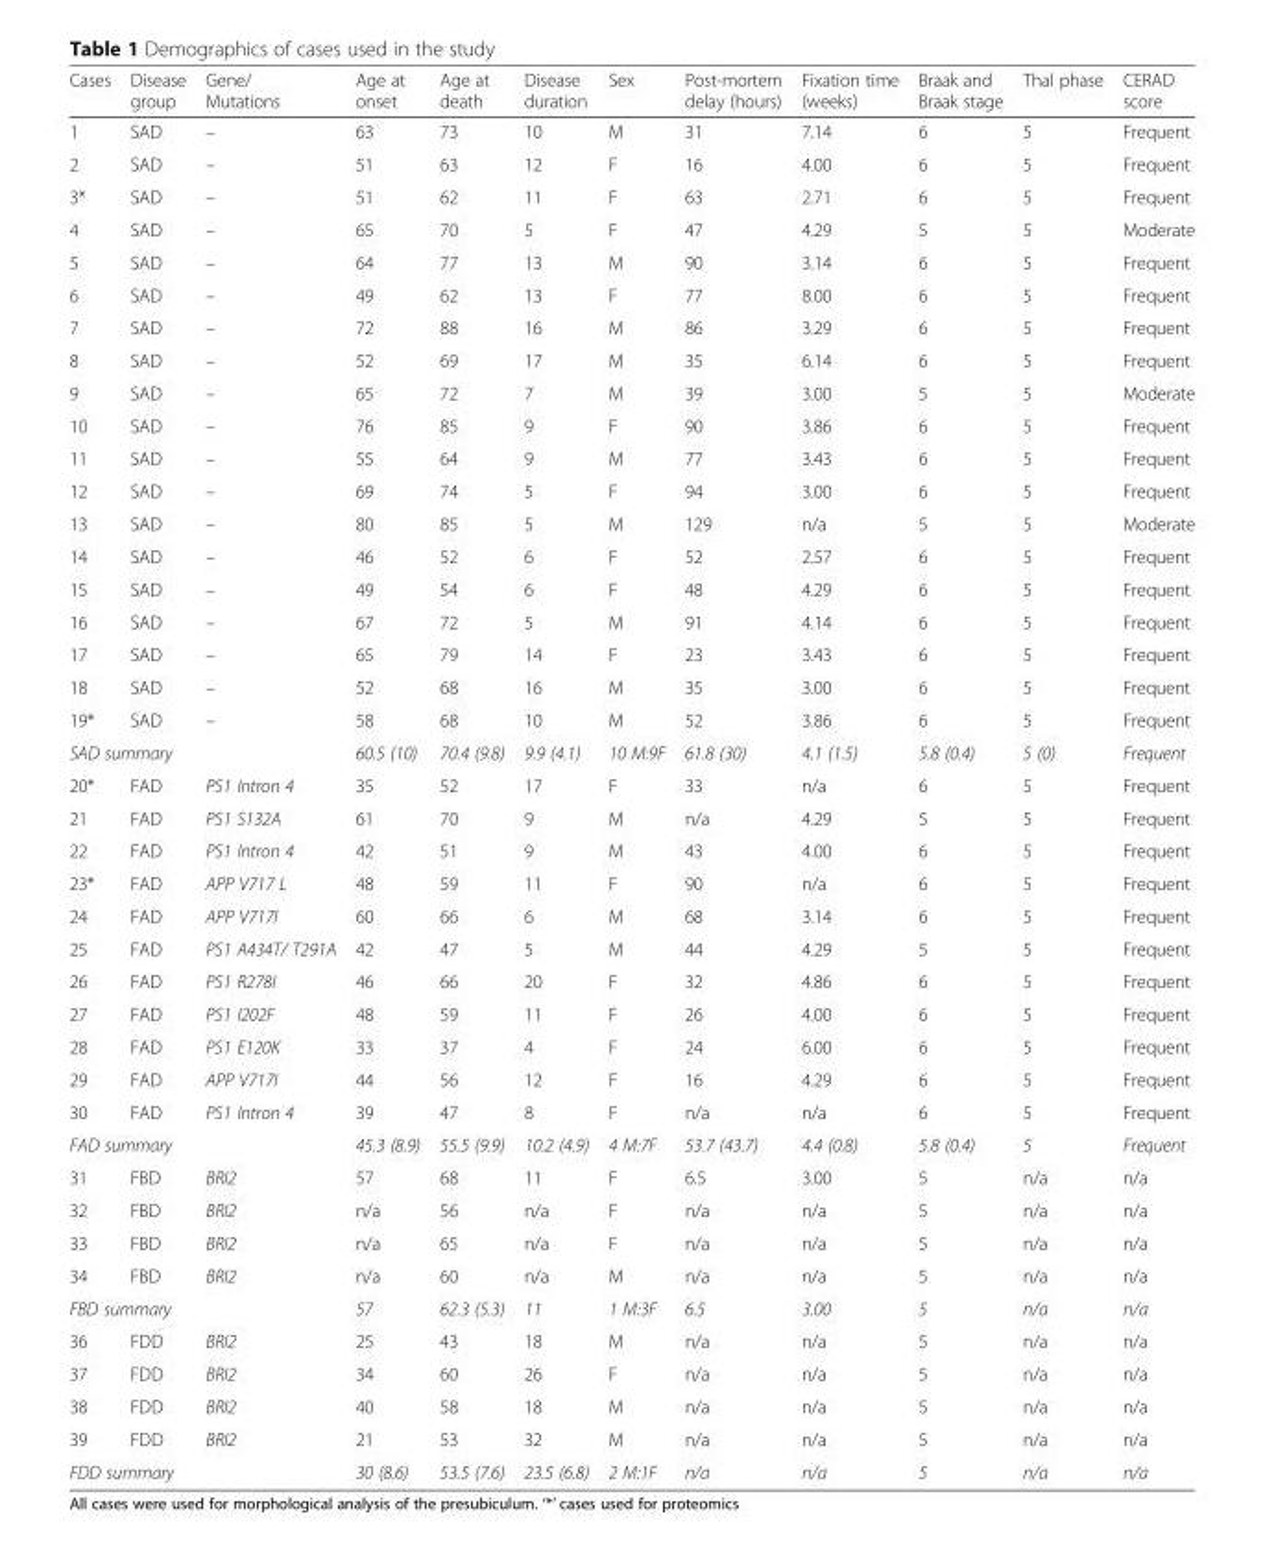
<table><thead><tr><td>Cases</td><td>Disease group</td><td>Gene/ Mutations</td><td>Age at onset</td><td>Age at death</td><td>Disease duration</td><td>Sex</td><td>Post-mortem delay (hours)</td><td>Fixation time (weeks)</td><td>Braak and Braak stage</td><td>Thal phase</td><td>CERAD score</td></tr></thead><tbody><tr><td>1</td><td>SAD</td><td>–</td><td>63</td><td>73</td><td>10</td><td>M</td><td>31</td><td>7.14</td><td>6</td><td>5</td><td>Frequent</td></tr><tr><td>2</td><td>SAD</td><td>–</td><td>51</td><td>63</td><td>12</td><td>F</td><td>16</td><td>4.00</td><td>6</td><td>5</td><td>Frequent</td></tr><tr><td>3*</td><td>SAD</td><td>–</td><td>51</td><td>62</td><td>11</td><td>F</td><td>63</td><td>2.71</td><td>6</td><td>5</td><td>Frequent</td></tr><tr><td>4</td><td>SAD</td><td>–</td><td>65</td><td>70</td><td>5</td><td>F</td><td>47</td><td>4.29</td><td>5</td><td>5</td><td>Moderate</td></tr><tr><td>5</td><td>SAD</td><td>–</td><td>64</td><td>77</td><td>13</td><td>M</td><td>90</td><td>3.14</td><td>6</td><td>5</td><td>Frequent</td></tr><tr><td>6</td><td>SAD</td><td>–</td><td>49</td><td>62</td><td>13</td><td>F</td><td>77</td><td>8.00</td><td>6</td><td>5</td><td>Frequent</td></tr><tr><td>7</td><td>SAD</td><td>–</td><td>72</td><td>88</td><td>16</td><td>M</td><td>86</td><td>3.29</td><td>6</td><td>5</td><td>Frequent</td></tr><tr><td>8</td><td>SAD</td><td>–</td><td>52</td><td>69</td><td>17</td><td>M</td><td>35</td><td>6.14</td><td>6</td><td>5</td><td>Frequent</td></tr><tr><td>9</td><td>SAD</td><td>–</td><td>65</td><td>72</td><td>7</td><td>M</td><td>39</td><td>3.00</td><td>5</td><td>5</td><td>Moderate</td></tr><tr><td>10</td><td>SAD</td><td>–</td><td>76</td><td>85</td><td>9</td><td>F</td><td>90</td><td>3.86</td><td>6</td><td>5</td><td>Frequent</td></tr><tr><td>11</td><td>SAD</td><td>–</td><td>55</td><td>64</td><td>9</td><td>M</td><td>77</td><td>3.43</td><td>6</td><td>5</td><td>Frequent</td></tr><tr><td>12</td><td>SAD</td><td>–</td><td>69</td><td>74</td><td>5</td><td>F</td><td>94</td><td>3.00</td><td>6</td><td>5</td><td>Frequent</td></tr><tr><td>13</td><td>SAD</td><td>–</td><td>80</td><td>85</td><td>5</td><td>M</td><td>129</td><td>n/a</td><td>5</td><td>5</td><td>Moderate</td></tr><tr><td>14</td><td>SAD</td><td>–</td><td>46</td><td>52</td><td>6</td><td>F</td><td>52</td><td>2.57</td><td>6</td><td>5</td><td>Frequent</td></tr><tr><td>15</td><td>SAD</td><td>–</td><td>49</td><td>54</td><td>6</td><td>F</td><td>48</td><td>4.29</td><td>6</td><td>5</td><td>Frequent</td></tr><tr><td>16</td><td>SAD</td><td>–</td><td>67</td><td>72</td><td>5</td><td>M</td><td>91</td><td>4.14</td><td>6</td><td>5</td><td>Frequent</td></tr><tr><td>17</td><td>SAD</td><td>–</td><td>65</td><td>79</td><td>14</td><td>F</td><td>23</td><td>3.43</td><td>6</td><td>5</td><td>Frequent</td></tr><tr><td>18</td><td>SAD</td><td>–</td><td>52</td><td>68</td><td>16</td><td>M</td><td>35</td><td>3.00</td><td>6</td><td>5</td><td>Frequent</td></tr><tr><td>19*</td><td>SAD</td><td>–</td><td>58</td><td>68</td><td>10</td><td>M</td><td>52</td><td>3.86</td><td>6</td><td>5</td><td>Frequent</td></tr><tr><td colspan="3">SAD summary</td><td>60.5 (10)</td><td>70.4 (9.8)</td><td>9.9 (4.1)</td><td>10 M:9F</td><td>61.8 (30)</td><td>4.1 (1.5)</td><td>5.8 (0.4)</td><td>5 (0)</td><td>Frequent</td></tr><tr><td>20*</td><td>FAD</td><td>PS1 Intron 4</td><td>35</td><td>52</td><td>17</td><td>F</td><td>33</td><td>n/a</td><td>6</td><td>5</td><td>Frequent</td></tr><tr><td>21</td><td>FAD</td><td>PS1 S132A</td><td>61</td><td>70</td><td>9</td><td>M</td><td>n/a</td><td>4.29</td><td>5</td><td>5</td><td>Frequent</td></tr><tr><td>22</td><td>FAD</td><td>PS1 Intron 4</td><td>42</td><td>51</td><td>9</td><td>M</td><td>43</td><td>4.00</td><td>6</td><td>5</td><td>Frequent</td></tr><tr><td>23*</td><td>FAD</td><td>APP V717 L</td><td>48</td><td>59</td><td>11</td><td>F</td><td>90</td><td>n/a</td><td>6</td><td>5</td><td>Frequent</td></tr><tr><td>24</td><td>FAD</td><td>APP V717I</td><td>60</td><td>66</td><td>6</td><td>M</td><td>68</td><td>3.14</td><td>6</td><td>5</td><td>Frequent</td></tr><tr><td>25</td><td>FAD</td><td>PS1 A434T/ T291A</td><td>42</td><td>47</td><td>5</td><td>M</td><td>44</td><td>4.29</td><td>5</td><td>5</td><td>Frequent</td></tr><tr><td>26</td><td>FAD</td><td>PS1 R278I</td><td>46</td><td>66</td><td>20</td><td>F</td><td>32</td><td>4.86</td><td>6</td><td>5</td><td>Frequent</td></tr><tr><td>27</td><td>FAD</td><td>PS1 I202F</td><td>48</td><td>59</td><td>11</td><td>F</td><td>26</td><td>4.00</td><td>6</td><td>5</td><td>Frequent</td></tr><tr><td>28</td><td>FAD</td><td>PS1 E120K</td><td>33</td><td>37</td><td>4</td><td>F</td><td>24</td><td>6.00</td><td>6</td><td>5</td><td>Frequent</td></tr><tr><td>29</td><td>FAD</td><td>APP V717I</td><td>44</td><td>56</td><td>12</td><td>F</td><td>16</td><td>4.29</td><td>6</td><td>5</td><td>Frequent</td></tr><tr><td>30</td><td>FAD</td><td>PS1 Intron 4</td><td>39</td><td>47</td><td>8</td><td>F</td><td>n/a</td><td>n/a</td><td>6</td><td>5</td><td>Frequent</td></tr><tr><td colspan="3">FAD summary</td><td>45.3 (8.9)</td><td>55.5 (9.9)</td><td>10.2 (4.9)</td><td>4 M:7F</td><td>53.7 (43.7)</td><td>4.4 (0.8)</td><td>5.8 (0.4)</td><td>5</td><td>Frequent</td></tr><tr><td>31</td><td>FBD</td><td>BRI2</td><td>57</td><td>68</td><td>11</td><td>F</td><td>6.5</td><td>3.00</td><td>5</td><td>n/a</td><td>n/a</td></tr><tr><td>32</td><td>FBD</td><td>BRI2</td><td>n/a</td><td>56</td><td>n/a</td><td>F</td><td>n/a</td><td>n/a</td><td>5</td><td>n/a</td><td>n/a</td></tr><tr><td>33</td><td>FBD</td><td>BRI2</td><td>n/a</td><td>65</td><td>n/a</td><td>F</td><td>n/a</td><td>n/a</td><td>5</td><td>n/a</td><td>n/a</td></tr><tr><td>34</td><td>FBD</td><td>BRI2</td><td>n/a</td><td>60</td><td>n/a</td><td>M</td><td>n/a</td><td>n/a</td><td>5</td><td>n/a</td><td>n/a</td></tr><tr><td colspan="3">FBD summary</td><td>57</td><td>62.3 (5.3)</td><td>11</td><td>1 M:3F</td><td>6.5</td><td>3.00</td><td>5</td><td>n/a</td><td>n/a</td></tr><tr><td>36</td><td>FDD</td><td>BRI2</td><td>25</td><td>43</td><td>18</td><td>M</td><td>n/a</td><td>n/a</td><td>5</td><td>n/a</td><td>n/a</td></tr><tr><td>37</td><td>FDD</td><td>BRI2</td><td>34</td><td>60</td><td>26</td><td>F</td><td>n/a</td><td>n/a</td><td>5</td><td>n/a</td><td>n/a</td></tr><tr><td>38</td><td>FDD</td><td>BRI2</td><td>40</td><td>58</td><td>18</td><td>M</td><td>n/a</td><td>n/a</td><td>5</td><td>n/a</td><td>n/a</td></tr><tr><td>39</td><td>FDD</td><td>BRI2</td><td>21</td><td>53</td><td>32</td><td>M</td><td>n/a</td><td>n/a</td><td>5</td><td>n/a</td><td>n/a</td></tr><tr><td colspan="3">FDD summary</td><td>30 (8.6)</td><td>53.5 (7.6)</td><td>23.5 (6.8)</td><td>2 M:1F</td><td>n/a</td><td>n/a</td><td>5</td><td>n/a</td><td>n/a</td></tr></tbody></table>